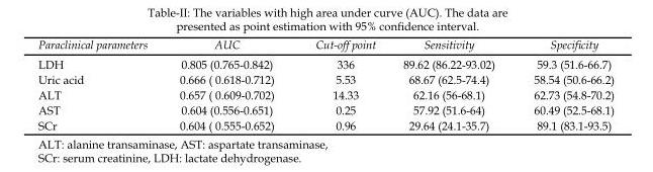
<table><thead><tr><td>Paraclinical parameters</td><td>AUC</td><td>Cut-off point</td><td>Sensitivity</td><td>Specificity</td></tr></thead><tbody><tr><td>LDH</td><td>0.805 (0.765-0.842)</td><td>336</td><td>89.62 (86.22-93.02)</td><td>59.3 (51.6-66.7)</td></tr><tr><td>Uric acid</td><td>0.666 ( 0.618-0.712)</td><td>5.53</td><td>68.67 (62.5-74.4)</td><td>58.54 (50.6-66.2)</td></tr><tr><td>ALT</td><td>0.657 ( 0.609-0.702)</td><td>14.33</td><td>62.16 (56-68.1)</td><td>62.73 (54.8-70.2)</td></tr><tr><td>AST</td><td>0.604 (0.556-0.651)</td><td>0.25</td><td>57.92 (51.6-64)</td><td>60.49 (52.5-68.1)</td></tr><tr><td>SCr</td><td>0.604 ( 0.555-0.652)</td><td>0.96</td><td>29.64 (24.1-35.7)</td><td>89.1 (83.1-93.5)</td></tr></tbody></table>